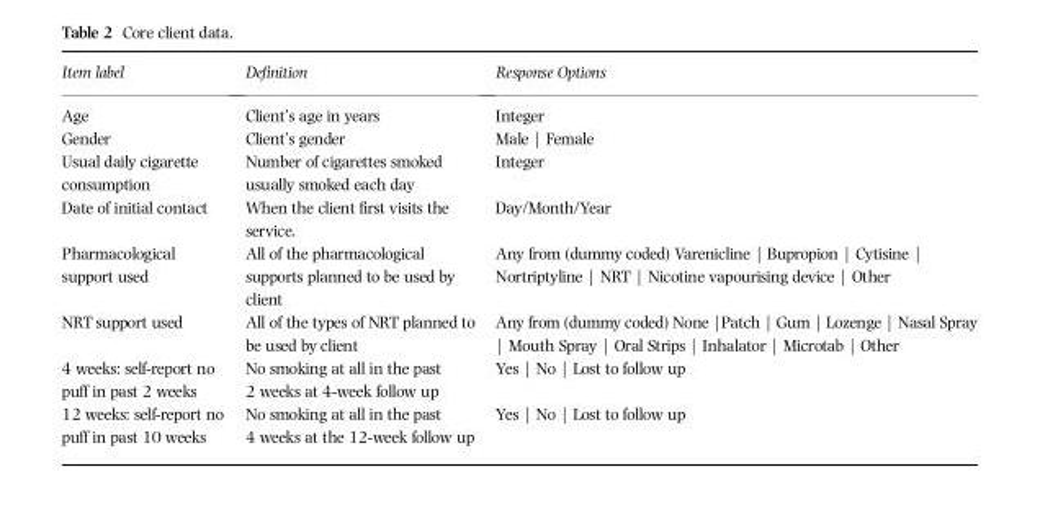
<table><thead><tr><td>Item label</td><td>Definition</td><td>Response Options</td></tr></thead><tbody><tr><td>Age</td><td>Client’s age in years</td><td>Integer</td></tr><tr><td>Gender</td><td>Client’s gender</td><td>Male | Female</td></tr><tr><td>Usual daily cigarette consumption</td><td>Number of cigarettes smoked usually smoked each day</td><td>Integer</td></tr><tr><td>Date of initial contact</td><td>When the client first visits the service.</td><td>Day/Month/Year</td></tr><tr><td>Pharmacological support used</td><td>All of the pharmacological supports planned to be used by client</td><td>Any from (dummy coded) Varenicline | Bupropion | Cytisine | Nortriptyline | NRT | Nicotine vapourising device | Other</td></tr><tr><td>NRT support used</td><td>All of the types of NRT planned to be used by client</td><td>Any from (dummy coded) None |Patch | Gum | Lozenge | Nasal Spray | Mouth Spray | Oral Strips | Inhalator | Microtab | Other</td></tr><tr><td>4 weeks: self-report no puff in past 2 weeks</td><td>No smoking at all in the past 2 weeks at 4-week follow up</td><td>Yes | No | Lost to follow up</td></tr><tr><td>12 weeks: self-report no puff in past 10 weeks</td><td>No smoking at all in the past 4 weeks at the 12-week follow up</td><td>Yes | No | Lost to follow up</td></tr></tbody></table>